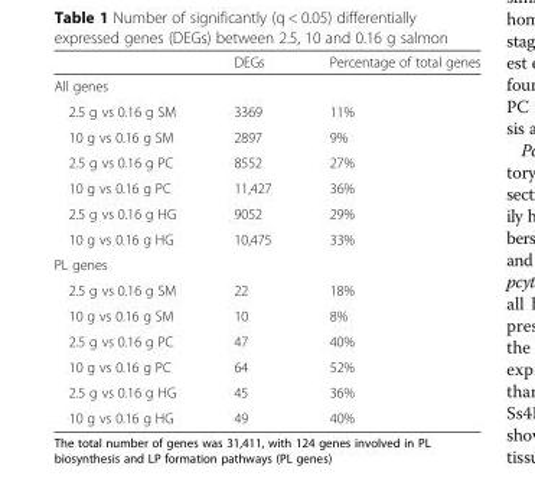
<table><thead><tr><td></td><td>DEGs</td><td>Percentage of total genes</td></tr></thead><tbody><tr><td colspan="3">All genes</td></tr><tr><td>2.5 g vs 0.16 g SM</td><td>3369</td><td>11%</td></tr><tr><td>10 g vs 0.16 g SM</td><td>2897</td><td>9%</td></tr><tr><td>2.5 g vs 0.16 g PC</td><td>8552</td><td>27%</td></tr><tr><td>10 g vs 0.16 g PC</td><td>11,427</td><td>36%</td></tr><tr><td>2.5 g vs 0.16 g HG</td><td>9052</td><td>29%</td></tr><tr><td>10 g vs 0.16 g HG</td><td>10,475</td><td>33%</td></tr><tr><td colspan="3">PL genes</td></tr><tr><td>2.5 g vs 0.16 g SM</td><td>22</td><td>18%</td></tr><tr><td>10 g vs 0.16 g SM</td><td>10</td><td>8%</td></tr><tr><td>2.5 g vs 0.16 g PC</td><td>47</td><td>40%</td></tr><tr><td>10 g vs 0.16 g PC</td><td>64</td><td>52%</td></tr><tr><td>2.5 g vs 0.16 g HG</td><td>45</td><td>36%</td></tr><tr><td>10 g vs 0.16 g HG</td><td>49</td><td>40%</td></tr></tbody></table>